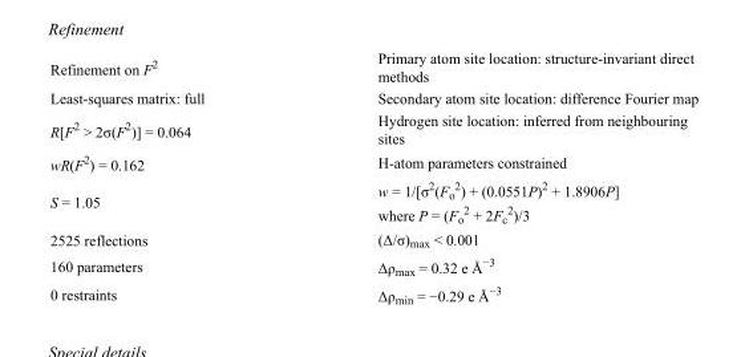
<table><tbody><tr><td>Refinement on F<sup>2</sup></td><td>Primary atom site location: structure-invariant direct methods</td></tr><tr><td>Least-squares matrix: full</td><td>Secondary atom site location: difference Fourier map</td></tr><tr><td>R[F<sup>2</sup> &gt; 2σ(F<sup>2</sup>)] = 0.064</td><td>Hydrogen site location: inferred from neighbouring sites</td></tr><tr><td>wR(F<sup>2</sup>) = 0.162</td><td>H-atom parameters constrained</td></tr><tr><td>S = 1.05</td><td>w = 1/[σ<sup>2</sup>(F<sub>o</sub> <sup>2</sup>) + (0.0551P)<sup>2</sup> + 1.8906P] where P = (F<sub>o</sub> <sup>2</sup> + 2F<sub>c</sub> <sup>2</sup>)/3</td></tr><tr><td>2525 reflections</td><td>(Δ/σ)<sub>max</sub> &lt; 0.001</td></tr><tr><td>160 parameters</td><td>Δρ<sub>max</sub> = 0.32 e Å<sup>−3</sup></td></tr><tr><td>0 restraints</td><td>Δρ<sub>min</sub> = −0.29 e Å<sup>−3</sup></td></tr></tbody></table>